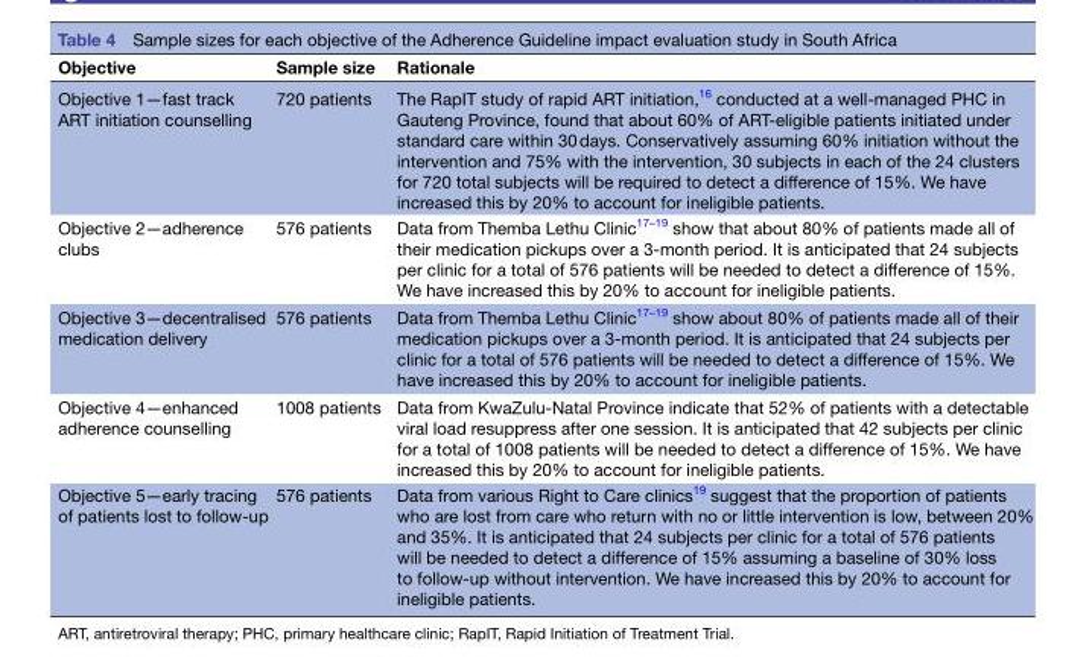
<table><thead><tr><td>Objective</td><td>Sample size</td><td>Rationale</td></tr></thead><tbody><tr><td>Objective 1—fast track ART initiation counselling</td><td>720 patients</td><td>The RapIT study of rapid ART initiation,<sup>16</sup> conducted at a well-managed PHC in Gauteng Province, found that about 60% of ART-eligible patients initiated under standard care within 30 days. Conservatively assuming 60% initiation without the intervention and 75% with the intervention, 30 subjects in each of the 24 clusters for 720 total subjects will be required to detect a difference of 15%. We have increased this by 20% to account for ineligible patients.</td></tr><tr><td>Objective 2—adherence clubs</td><td>576 patients</td><td>Data from Themba Lethu Clinic<sup>17–19</sup> show that about 80% of patients made all of their medication pickups over a 3-month period. It is anticipated that 24 subjects per clinic for a total of 576 patients will be needed to detect a difference of 15%. We have increased this by 20% to account for ineligible patients.</td></tr><tr><td>Objective 3—decentralised medication delivery</td><td>576 patients</td><td>Data from Themba Lethu Clinic<sup>17–19</sup> show about 80% of patients made all of their medication pickups over a 3-month period. It is anticipated that 24 subjects per clinic for a total of 576 patients will be needed to detect a difference of 15%. We have increased this by 20% to account for ineligible patients.</td></tr><tr><td>Objective 4—enhanced adherence counselling</td><td>1008 patients</td><td>Data from KwaZulu-Natal Province indicate that 52% of patients with a detectable viral load resuppress after one session. It is anticipated that 42 subjects per clinic for a total of 1008 patients will be needed to detect a difference of 15%. We have increased this by 20% to account for ineligible patients.</td></tr><tr><td>Objective 5—early tracing of patients lost to follow-up</td><td>576 patients</td><td>Data from various Right to Care clinics<sup>19</sup> suggest that the proportion of patients who are lost from care who return with no or little intervention is low, between 20% and 35%. It is anticipated that 24 subjects per clinic for a total of 576 patients will be needed to detect a difference of 15% assuming a baseline of 30% loss to follow-up without intervention. We have increased this by 20% to account for ineligible patients.</td></tr></tbody></table>